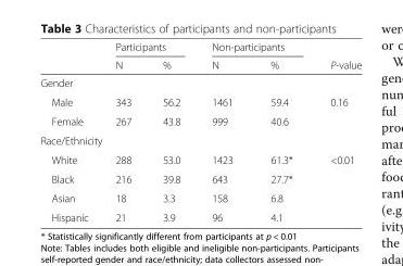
<table><thead><tr><td rowspan="2"></td><td colspan="2">Participants</td><td colspan="2">Non-participants</td><td rowspan="2">P-value</td></tr><tr><td>N</td><td>%</td><td>N</td><td>%</td></tr></thead><tbody><tr><td colspan="6">Gender</td></tr><tr><td>Male</td><td>343</td><td>56.2</td><td>1461</td><td>59.4</td><td rowspan="2">0.16</td></tr><tr><td>Female</td><td>267</td><td>43.8</td><td>999</td><td>40.6</td></tr><tr><td colspan="6">Race/Ethnicity</td></tr><tr><td>White</td><td>288</td><td>53.0</td><td>1423</td><td>61.3*</td><td rowspan="4">&lt;0.01</td></tr><tr><td>Black</td><td>216</td><td>39.8</td><td>643</td><td>27.7*</td></tr><tr><td>Asian</td><td>18</td><td>3.3</td><td>158</td><td>6.8</td></tr><tr><td>Hispanic</td><td>21</td><td>3.9</td><td>96</td><td>4.1</td></tr></tbody></table>